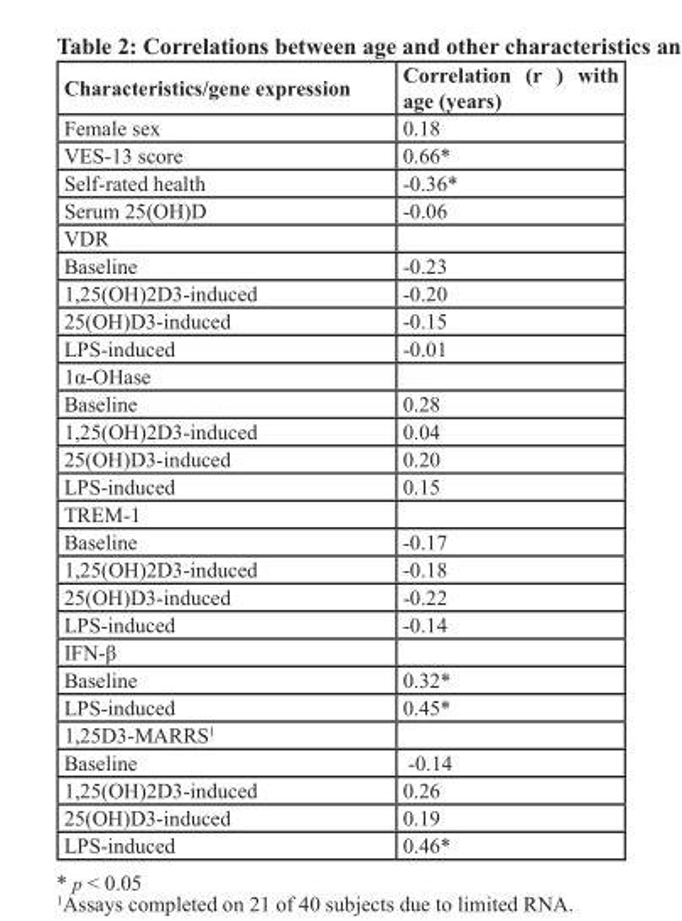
<table><thead><tr><td>Characteristics/gene expression</td><td>Correlation (r ) with age (years)</td></tr></thead><tbody><tr><td>Female sex</td><td>0.18</td></tr><tr><td>VES-13 score</td><td>0.66*</td></tr><tr><td>Self-rated health</td><td>-0.36*</td></tr><tr><td>Serum 25(OH)D</td><td>-0.06</td></tr><tr><td colspan="2">VDR</td></tr><tr><td>Baseline</td><td>-0.23</td></tr><tr><td>1,25(OH)2D3-induced</td><td>-0.20</td></tr><tr><td>25(OH)D3-induced</td><td>-0.15</td></tr><tr><td>LPS-induced</td><td>-0.01</td></tr><tr><td colspan="2">1α-OHase</td></tr><tr><td>Baseline</td><td>0.28</td></tr><tr><td>1,25(OH)2D3-induced</td><td>0.04</td></tr><tr><td>25(OH)D3-induced</td><td>0.20</td></tr><tr><td>LPS-induced</td><td>0.15</td></tr><tr><td colspan="2">TREM-1</td></tr><tr><td>Baseline</td><td>-0.17</td></tr><tr><td>1,25(OH)2D3-induced</td><td>-0.18</td></tr><tr><td>25(OH)D3-induced</td><td>-0.22</td></tr><tr><td>LPS-induced</td><td>-0.14</td></tr><tr><td colspan="2">IFN-β</td></tr><tr><td>Baseline</td><td>0.32*</td></tr><tr><td>LPS-induced</td><td>0.45*</td></tr><tr><td colspan="2">1,25D3-MARRS<sup>1</sup></td></tr><tr><td>Baseline</td><td>-0.14</td></tr><tr><td>1,25(OH)2D3-induced</td><td>0.26</td></tr><tr><td>25(OH)D3-induced</td><td>0.19</td></tr><tr><td>LPS-induced</td><td>0.46*</td></tr></tbody></table>